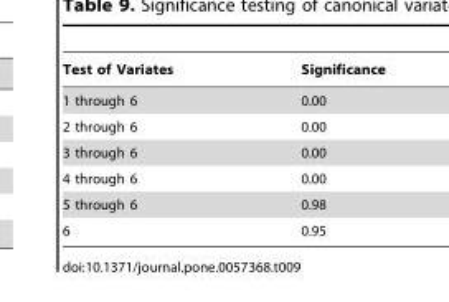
<table><thead><tr><td>Test of Variates</td><td>Significance</td></tr></thead><tbody><tr><td>1 through 6</td><td>0.00</td></tr><tr><td>2 through 6</td><td>0.00</td></tr><tr><td>3 through 6</td><td>0.00</td></tr><tr><td>4 through 6</td><td>0.00</td></tr><tr><td>5 through 6</td><td>0.98</td></tr><tr><td>6</td><td>0.95</td></tr></tbody></table>